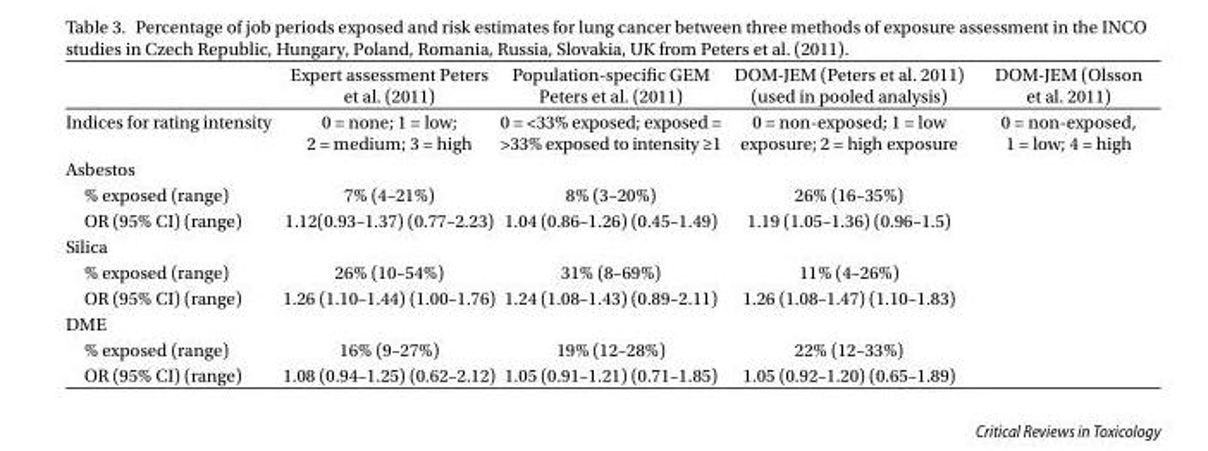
<table><thead><tr><td></td><td>Expert assessment Peters et al. (2011)</td><td>Population-specific GEM Peters et al. (2011)</td><td>DOM-JEM (Peters et al. 2011) (used in pooled analysis)</td><td>DOM-JEM (Olsson et al. 2011)</td></tr></thead><tbody><tr><td>Indices for rating intensity</td><td>0 = none; 1 = low; 2 = medium; 3 = high</td><td>0 = &lt;33% exposed; exposed = &gt;33% exposed to intensity ≥1</td><td>0 = non-exposed; 1 = low exposure; 2 = high exposure</td><td>0 = non-exposed, 1 = low; 4 = high</td></tr><tr><td colspan="5">Asbestos</td></tr><tr><td>% exposed (range)</td><td>7% (4–21%)</td><td>8% (3–20%)</td><td>26% (16–35%)</td><td></td></tr><tr><td>OR (95% CI) (range)</td><td>1.12(0.93–1.37) (0.77–2.23)</td><td>1.04 (0.86–1.26) (0.45–1.49)</td><td>1.19 (1.05–1.36) (0.96–1.5)</td><td></td></tr><tr><td colspan="5">Silica</td></tr><tr><td>% exposed (range)</td><td>26% (10–54%)</td><td>31% (8–69%)</td><td>11% (4–26%)</td><td></td></tr><tr><td>OR (95% CI) (range)</td><td>1.26 (1.10–1.44) (1.00–1.76)</td><td>1.24 (1.08–1.43) (0.89–2.11)</td><td>1.26 (1.08–1.47) (1.10–1.83)</td><td></td></tr><tr><td colspan="5">DME</td></tr><tr><td>% exposed (range)</td><td>16% (9–27%)</td><td>19% (12–28%)</td><td>22% (12–33%)</td><td></td></tr><tr><td>OR (95% CI) (range)</td><td>1.08 (0.94–1.25) (0.62–2.12)</td><td>1.05 (0.91–1.21) (0.71–1.85)</td><td>1.05 (0.92–1.20) (0.65–1.89)</td><td></td></tr></tbody></table>